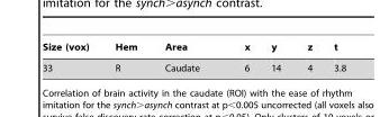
<table><thead><tr><td>Size (vox)</td><td>Hem</td><td>Area</td><td>x</td><td>y</td><td>z</td><td>t</td></tr></thead><tbody><tr><td>33</td><td>R</td><td>Caudate</td><td>6</td><td>14</td><td>4</td><td>3.8</td></tr></tbody></table>